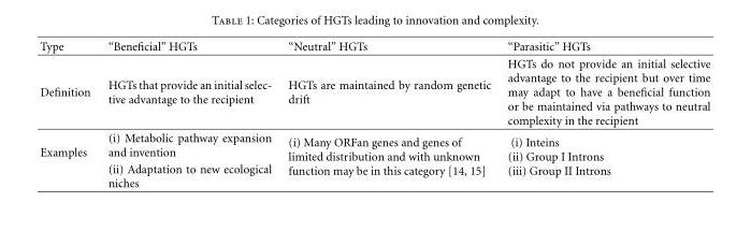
<table><thead><tr><td>Type</td><td>“Beneficial” HGTs</td><td>“Neutral” HGTs</td><td>“Parasitic” HGTs</td></tr></thead><tbody><tr><td>Definition</td><td>HGTs that provide an initial selec- tive advantage to the recipient</td><td>HGTs are maintained by random genetic drift</td><td>HGTs do not provide an initial selective advantage to the recipient but over time may adapt to have a beneficial function or be maintained via pathways to neutral complexity in the recipient</td></tr><tr><td rowspan="2">Examples</td><td>(i) Metabolic pathway expansion and invention</td><td rowspan="2">(i) Many ORFan genes and genes of limited distribution and with unknown function may be in this category [14, 15]</td><td rowspan="2">(i) Inteins (ii) Group I Introns (iii) Group II Introns</td></tr><tr><td>(ii) Adaptation to new ecological niches</td></tr></tbody></table>